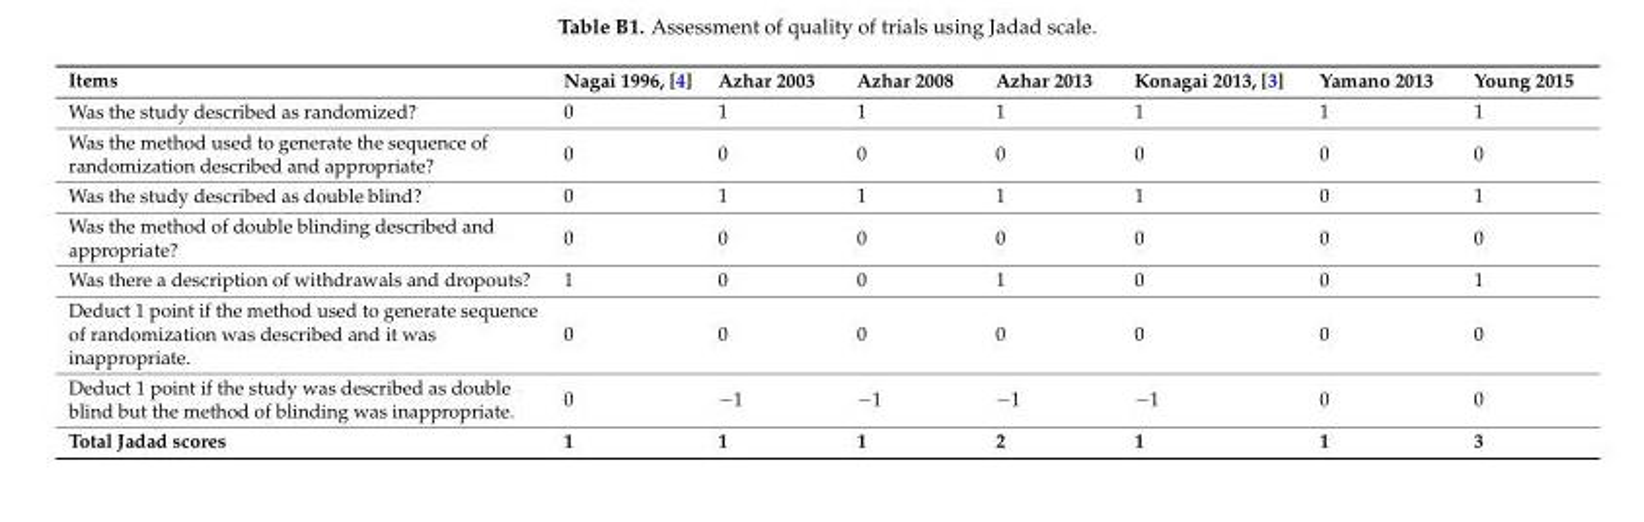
<table><thead><tr><td>Items</td><td>Nagai 1996, [4]</td><td>Azhar 2003</td><td>Azhar 2008</td><td>Azhar 2013</td><td>Konagai 2013, [3]</td><td>Yamano 2013</td><td>Young 2015</td></tr></thead><tbody><tr><td>Was the study described as randomized?</td><td>0</td><td>1</td><td>1</td><td>1</td><td>1</td><td>1</td><td>1</td></tr><tr><td>Was the method used to generate the sequence of randomization described and appropriate?</td><td>0</td><td>0</td><td>0</td><td>0</td><td>0</td><td>0</td><td>0</td></tr><tr><td>Was the study described as double blind?</td><td>0</td><td>1</td><td>1</td><td>1</td><td>1</td><td>0</td><td>1</td></tr><tr><td>Was the method of double blinding described and appropriate?</td><td>0</td><td>0</td><td>0</td><td>0</td><td>0</td><td>0</td><td>0</td></tr><tr><td>Was there a description of withdrawals and dropouts?</td><td>1</td><td>0</td><td>0</td><td>1</td><td>0</td><td>0</td><td>1</td></tr><tr><td>Deduct 1 point if the method used to generate sequence of randomization was described and it was inappropriate.</td><td>0</td><td>0</td><td>0</td><td>0</td><td>0</td><td>0</td><td>0</td></tr><tr><td>Deduct 1 point if the study was described as double blind but the method of blinding was inappropriate.</td><td>0</td><td>−1</td><td>−1</td><td>−1</td><td>−1</td><td>0</td><td>0</td></tr><tr><td>Total Jadad scores</td><td>1</td><td>1</td><td>1</td><td>2</td><td>1</td><td>1</td><td>3</td></tr></tbody></table>